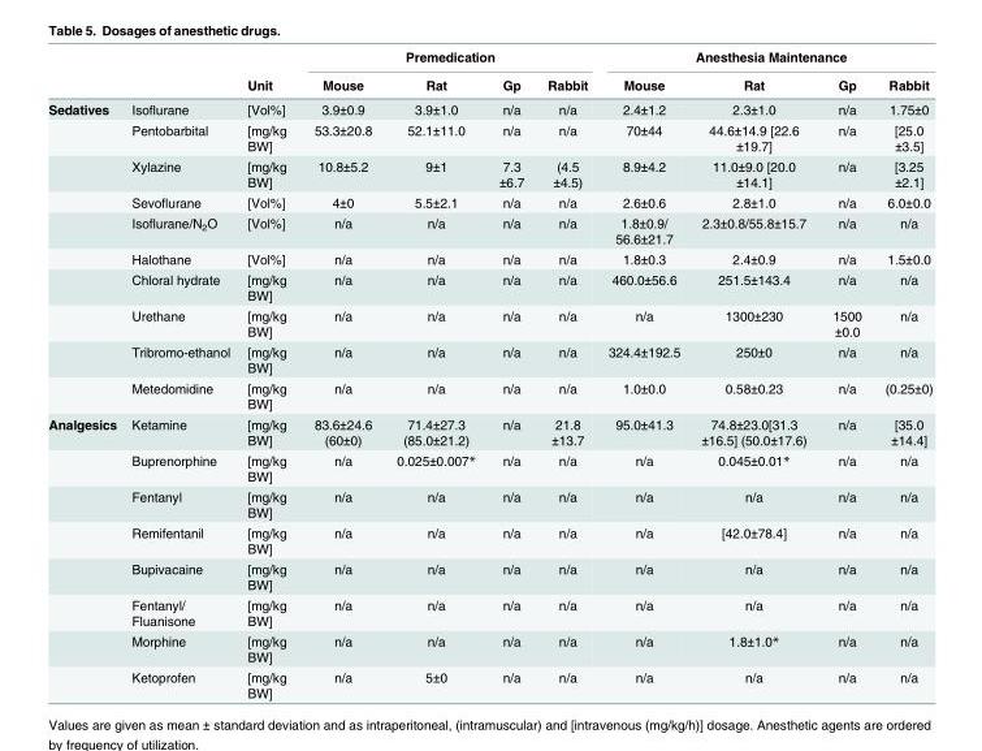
<table><thead><tr><td rowspan="2"></td><td rowspan="2"></td><td rowspan="2">Unit</td><td colspan="4">Premedication</td><td colspan="4">Anesthesia Maintenance</td></tr><tr><td>Mouse</td><td>Rat</td><td>Gp</td><td>Rabbit</td><td>Mouse</td><td>Rat</td><td>Gp</td><td>Rabbit</td></tr></thead><tbody><tr><td rowspan="10">Sedatives</td><td>Isoflurane</td><td>[Vol%]</td><td>3.9±0.9</td><td>3.9±1.0</td><td>n/a</td><td>n/a</td><td>2.4±1.2</td><td>2.3±1.0</td><td>n/a</td><td>1.75±0</td></tr><tr><td>Pentobarbital</td><td>[mg/kg BW]</td><td>53.3±20.8</td><td>52.1±11.0</td><td>n/a</td><td>n/a</td><td>70±44</td><td>44.6±14.9 [22.6 ±19.7]</td><td>n/a</td><td>[25.0 ±3.5]</td></tr><tr><td>Xylazine</td><td>[mg/kg BW]</td><td>10.8±5.2</td><td>9±1</td><td>7.3 ±6.7</td><td>(4.5 ±4.5)</td><td>8.9±4.2</td><td>11.0±9.0 [20.0 ±14.1]</td><td>n/a</td><td>[3.25 ±2.1]</td></tr><tr><td>Sevoflurane</td><td>[Vol%]</td><td>4±0</td><td>5.5±2.1</td><td>n/a</td><td>n/a</td><td>2.6±0.6</td><td>2.8±1.0</td><td>n/a</td><td>6.0±0.0</td></tr><tr><td>Isoflurane/N<sub>2</sub>O</td><td>[Vol%]</td><td>n/a</td><td>n/a</td><td>n/a</td><td>n/a</td><td>1.8±0.9/ 56.6±21.7</td><td>2.3±0.8/55.8±15.7</td><td>n/a</td><td>n/a</td></tr><tr><td>Halothane</td><td>[Vol%]</td><td>n/a</td><td>n/a</td><td>n/a</td><td>n/a</td><td>1.8±0.3</td><td>2.4±0.9</td><td>n/a</td><td>1.5±0.0</td></tr><tr><td>Chloral hydrate</td><td>[mg/kg BW]</td><td>n/a</td><td>n/a</td><td>n/a</td><td>n/a</td><td>460.0±56.6</td><td>251.5±143.4</td><td>n/a</td><td>n/a</td></tr><tr><td>Urethane</td><td>[mg/kg BW]</td><td>n/a</td><td>n/a</td><td>n/a</td><td>n/a</td><td>n/a</td><td>1300±230</td><td>1500 ±0.0</td><td>n/a</td></tr><tr><td>Tribromo-ethanol</td><td>[mg/kg BW]</td><td>n/a</td><td>n/a</td><td>n/a</td><td>n/a</td><td>324.4±192.5</td><td>250±0</td><td>n/a</td><td>n/a</td></tr><tr><td>Metedomidine</td><td>[mg/kg BW]</td><td>n/a</td><td>n/a</td><td>n/a</td><td>n/a</td><td>1.0±0.0</td><td>0.58±0.23</td><td>n/a</td><td>(0.25±0)</td></tr><tr><td rowspan="8">Analgesics</td><td>Ketamine</td><td>[mg/kg BW]</td><td>83.6±24.6 (60±0)</td><td>71.4±27.3 (85.0±21.2)</td><td>n/a</td><td>21.8 ±13.7</td><td>95.0±41.3</td><td>74.8±23.0[31.3 ±16.5] (50.0±17.6)</td><td>n/a</td><td>[35.0 ±14.4]</td></tr><tr><td>Buprenorphine</td><td>[mg/kg BW]</td><td>n/a</td><td>0.025±0.007*</td><td>n/a</td><td>n/a</td><td>n/a</td><td>0.045±0.01*</td><td>n/a</td><td>n/a</td></tr><tr><td>Fentanyl</td><td>[mg/kg BW]</td><td>n/a</td><td>n/a</td><td>n/a</td><td>n/a</td><td>n/a</td><td>n/a</td><td>n/a</td><td>n/a</td></tr><tr><td>Remifentanil</td><td>[mg/kg BW]</td><td>n/a</td><td>n/a</td><td>n/a</td><td>n/a</td><td>n/a</td><td>[42.0±78.4]</td><td>n/a</td><td>n/a</td></tr><tr><td>Bupivacaine</td><td>[mg/kg BW]</td><td>n/a</td><td>n/a</td><td>n/a</td><td>n/a</td><td>n/a</td><td>n/a</td><td>n/a</td><td>n/a</td></tr><tr><td>Fentanyl/ Fluanisone</td><td>[mg/kg BW]</td><td>n/a</td><td>n/a</td><td>n/a</td><td>n/a</td><td>n/a</td><td>n/a</td><td>n/a</td><td>n/a</td></tr><tr><td>Morphine</td><td>[mg/kg BW]</td><td>n/a</td><td>n/a</td><td>n/a</td><td>n/a</td><td>n/a</td><td>1.8±1.0*</td><td>n/a</td><td>n/a</td></tr><tr><td>Ketoprofen</td><td>[mg/kg BW]</td><td>n/a</td><td>5±0</td><td>n/a</td><td>n/a</td><td>n/a</td><td>n/a</td><td>n/a</td><td>n/a</td></tr></tbody></table>